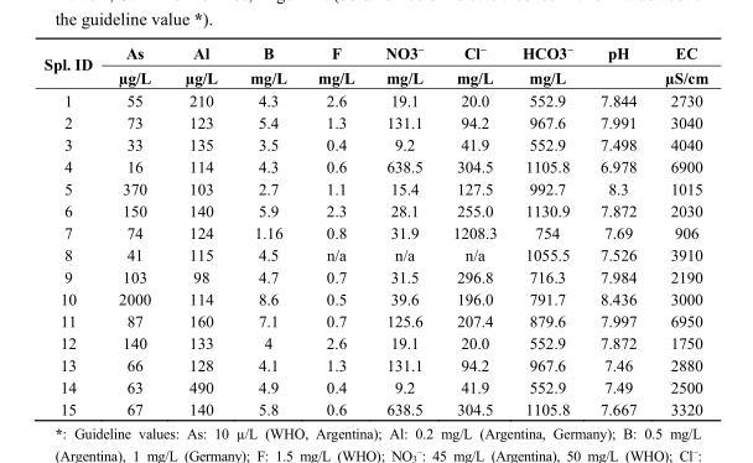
<table><thead><tr><td rowspan="2">Spl. ID</td><td rowspan="2">As µg/L</td><td rowspan="2">Al µg/L</td><td rowspan="2">B mg/L</td><td rowspan="2">F mg/L</td><td rowspan="2">NO3<sup>−</sup> mg/L</td><td rowspan="2">Cl<sup>−</sup> mg/L</td><td rowspan="2">HCO3<sup>−</sup> mg/L</td><td rowspan="2">pH</td><td rowspan="2">EC µS/cm</td></tr><tr></tr></thead><tbody><tr><td>1</td><td>55</td><td>210</td><td>4.3</td><td>2.6</td><td>19.1</td><td>20.0</td><td>552.9</td><td>7.844</td><td>2730</td></tr><tr><td>2</td><td>73</td><td>123</td><td>5.4</td><td>1.3</td><td>131.1</td><td>94.2</td><td>967.6</td><td>7.991</td><td>3040</td></tr><tr><td>3</td><td>33</td><td>135</td><td>3.5</td><td>0.4</td><td>9.2</td><td>41.9</td><td>552.9</td><td>7.498</td><td>4040</td></tr><tr><td>4</td><td>16</td><td>114</td><td>4.3</td><td>0.6</td><td>638.5</td><td>304.5</td><td>1105.8</td><td>6.978</td><td>6900</td></tr><tr><td>5</td><td>370</td><td>103</td><td>2.7</td><td>1.1</td><td>15.4</td><td>127.5</td><td>992.7</td><td>8.3</td><td>1015</td></tr><tr><td>6</td><td>150</td><td>140</td><td>5.9</td><td>2.3</td><td>28.1</td><td>255.0</td><td>1130.9</td><td>7.872</td><td>2030</td></tr><tr><td>7</td><td>74</td><td>124</td><td>1.16</td><td>0.8</td><td>31.9</td><td>1208.3</td><td>754</td><td>7.69</td><td>906</td></tr><tr><td>8</td><td>41</td><td>115</td><td>4.5</td><td>n/a</td><td>n/a</td><td>n/a</td><td>1055.5</td><td>7.526</td><td>3910</td></tr><tr><td>9</td><td>103</td><td>98</td><td>4.7</td><td>0.7</td><td>31.5</td><td>296.8</td><td>716.3</td><td>7.984</td><td>2190</td></tr><tr><td>10</td><td>2000</td><td>114</td><td>8.6</td><td>0.5</td><td>39.6</td><td>196.0</td><td>791.7</td><td>8.436</td><td>3000</td></tr><tr><td>11</td><td>87</td><td>160</td><td>7.1</td><td>0.7</td><td>125.6</td><td>207.4</td><td>879.6</td><td>7.997</td><td>6950</td></tr><tr><td>12</td><td>140</td><td>133</td><td>4</td><td>2.6</td><td>19.1</td><td>20.0</td><td>552.9</td><td>7.872</td><td>1750</td></tr><tr><td>13</td><td>66</td><td>128</td><td>4.1</td><td>1.3</td><td>131.1</td><td>94.2</td><td>967.6</td><td>7.46</td><td>2880</td></tr><tr><td>14</td><td>63</td><td>490</td><td>4.9</td><td>0.4</td><td>9.2</td><td>41.9</td><td>552.9</td><td>7.49</td><td>2500</td></tr><tr><td>15</td><td>67</td><td>140</td><td>5.8</td><td>0.6</td><td>638.5</td><td>304.5</td><td>1105.8</td><td>7.667</td><td>3320</td></tr></tbody></table>